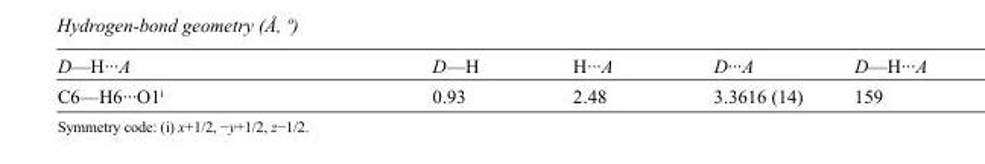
<table><tbody><tr><td>D—H···A</td><td>D—H</td><td>H···A</td><td>D···A</td><td>D—H···A</td></tr><tr><td>C6—H6···O1<sup>i</sup></td><td>0.93</td><td>2.48</td><td>3.3616 (14)</td><td>159</td></tr></tbody></table>